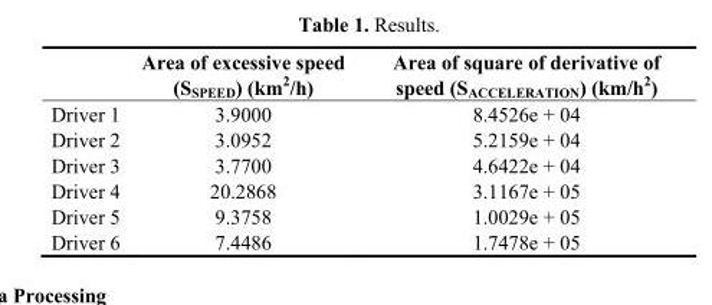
<table><thead><tr><td></td><td>Area of excessive speed (S<sub>SPEED</sub>) (km<sup>2</sup>/h)</td><td>Area of square of derivative of speed (S<sub>ACCELERATION</sub>) (km/h<sup>2</sup>)</td></tr></thead><tbody><tr><td>Driver 1</td><td>3.9000</td><td>8.4526e + 04</td></tr><tr><td>Driver 2</td><td>3.0952</td><td>5.2159e + 04</td></tr><tr><td>Driver 3</td><td>3.7700</td><td>4.6422e + 04</td></tr><tr><td>Driver 4</td><td>20.2868</td><td>3.1167e + 05</td></tr><tr><td>Driver 5</td><td>9.3758</td><td>1.0029e + 05</td></tr><tr><td>Driver 6</td><td>7.4486</td><td>1.7478e + 05</td></tr></tbody></table>